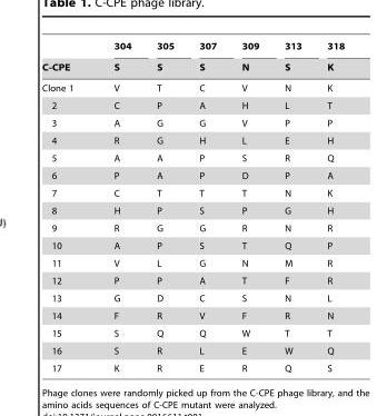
<table><thead><tr><td rowspan="2">C-CPE</td><td rowspan="2">304 S</td><td rowspan="2">305 S</td><td rowspan="2">307 S</td><td rowspan="2">309 N</td><td rowspan="2">313 S</td><td rowspan="2">318 K</td></tr><tr></tr></thead><tbody><tr><td>Clone 1</td><td>V</td><td>T</td><td>C</td><td>V</td><td>N</td><td>K</td></tr><tr><td>2</td><td>C</td><td>P</td><td>A</td><td>H</td><td>L</td><td>T</td></tr><tr><td>3</td><td>A</td><td>G</td><td>G</td><td>V</td><td>P</td><td>P</td></tr><tr><td>4</td><td>R</td><td>G</td><td>H</td><td>L</td><td>E</td><td>H</td></tr><tr><td>5</td><td>A</td><td>A</td><td>P</td><td>S</td><td>R</td><td>Q</td></tr><tr><td>6</td><td>P</td><td>A</td><td>P</td><td>D</td><td>P</td><td>A</td></tr><tr><td>7</td><td>C</td><td>T</td><td>T</td><td>T</td><td>N</td><td>K</td></tr><tr><td>8</td><td>H</td><td>P</td><td>S</td><td>P</td><td>G</td><td>H</td></tr><tr><td>9</td><td>R</td><td>G</td><td>G</td><td>R</td><td>N</td><td>R</td></tr><tr><td>10</td><td>A</td><td>P</td><td>S</td><td>T</td><td>Q</td><td>P</td></tr><tr><td>11</td><td>V</td><td>L</td><td>G</td><td>N</td><td>M</td><td>R</td></tr><tr><td>12</td><td>P</td><td>P</td><td>A</td><td>T</td><td>F</td><td>R</td></tr><tr><td>13</td><td>G</td><td>D</td><td>C</td><td>S</td><td>N</td><td>L</td></tr><tr><td>14</td><td>F</td><td>R</td><td>V</td><td>F</td><td>R</td><td>N</td></tr><tr><td>15</td><td>S</td><td>Q</td><td>Q</td><td>W</td><td>T</td><td>T</td></tr><tr><td>16</td><td>S</td><td>R</td><td>L</td><td>E</td><td>W</td><td>Q</td></tr><tr><td>17</td><td>K</td><td>R</td><td>E</td><td>R</td><td>Q</td><td>S</td></tr></tbody></table>